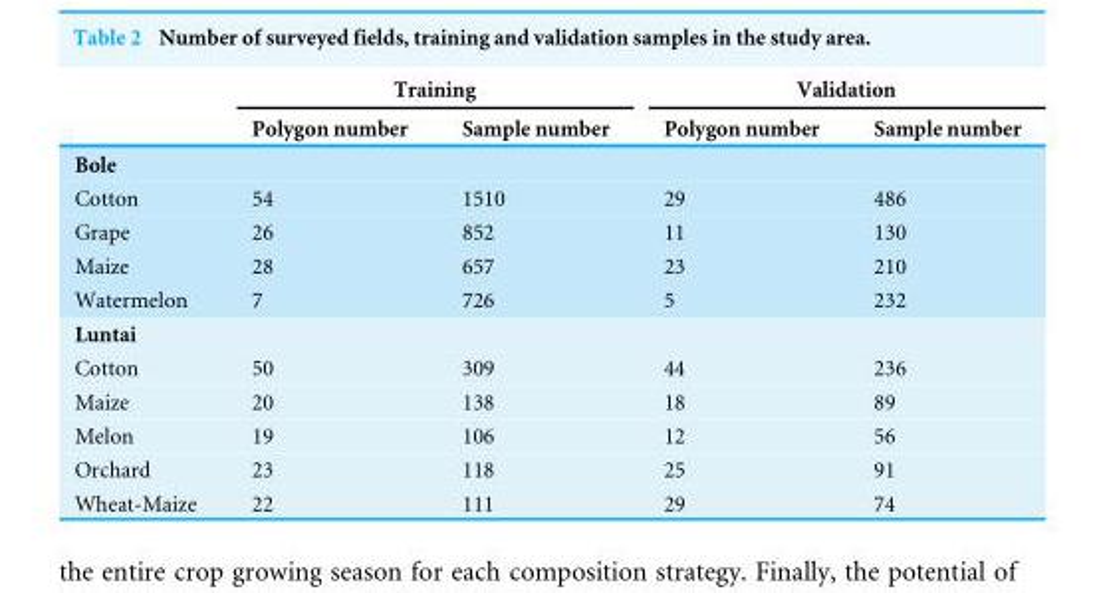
<table><thead><tr><td rowspan="2"></td><td colspan="2">Training</td><td colspan="2">Validation</td></tr><tr><td>Polygon number</td><td>Sample number</td><td>Polygon number</td><td>Sample number</td></tr></thead><tbody><tr><td colspan="5">Bole</td></tr><tr><td>Cotton</td><td>54</td><td>1510</td><td>29</td><td>486</td></tr><tr><td>Grape</td><td>26</td><td>852</td><td>11</td><td>130</td></tr><tr><td>Maize</td><td>28</td><td>657</td><td>23</td><td>210</td></tr><tr><td>Watermelon</td><td>7</td><td>726</td><td>5</td><td>232</td></tr><tr><td colspan="5">Luntai</td></tr><tr><td>Cotton</td><td>50</td><td>309</td><td>44</td><td>236</td></tr><tr><td>Maize</td><td>20</td><td>138</td><td>18</td><td>89</td></tr><tr><td>Melon</td><td>19</td><td>106</td><td>12</td><td>56</td></tr><tr><td>Orchard</td><td>23</td><td>118</td><td>25</td><td>91</td></tr><tr><td>Wheat-Maize</td><td>22</td><td>111</td><td>29</td><td>74</td></tr></tbody></table>